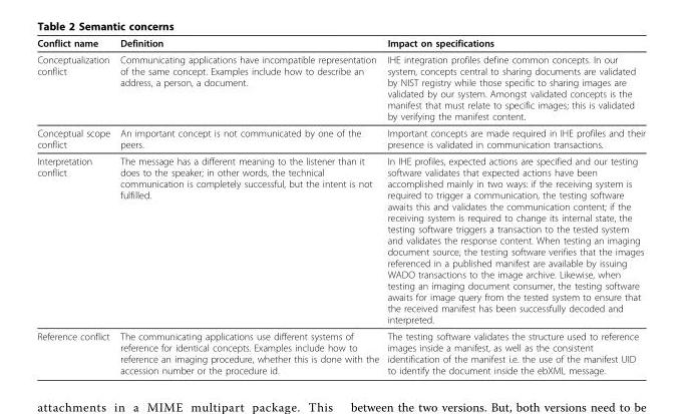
<table><thead><tr><td>Conflict name</td><td>Definition</td><td>Impact on specifications</td></tr></thead><tbody><tr><td>Conceptualization conflict</td><td>Communicating applications have incompatible representation of the same concept. Examples include how to describe an address, a person, a document.</td><td>IHE integration profiles define common concepts. In our system, concepts central to sharing documents are validated by NIST registry while those specific to sharing images are validated by our system. Amongst validated concepts is the manifest that must relate to specific images; this is validated by verifying the manifest content.</td></tr><tr><td>Conceptual scope conflict</td><td>An important concept is not communicated by one of the peers.</td><td>Important concepts are made required in IHE profiles and their presence is validated in communication transactions.</td></tr><tr><td>Interpretation conflict</td><td>The message has a different meaning to the listener than it does to the speaker; in other words, the technical communication is completely successful, but the intent is not fulfilled.</td><td>In IHE profiles, expected actions are specified and our testing software validates that expected actions have been accomplished mainly in two ways: if the receiving system is required to trigger a communication, the testing software awaits this and validates the communication content; if the receiving system is required to change its internal state, the testing software triggers a transaction to the tested system and validates the response content. When testing an imaging document source, the testing software verifies that the images referenced in a published manifest are available by issuing WADO transactions to the image archive. Likewise, when testing an imaging document consumer, the testing software awaits for image query from the tested system to ensure that the received manifest has been successfully decoded and interpreted.</td></tr><tr><td>Reference conflict</td><td>The communicating applications use different systems of reference for identical concepts. Examples include how to reference an imaging procedure, whether this is done with the accession number or the procedure id.</td><td>The testing software validates the structure used to reference images inside a manifest, as well as the consistent identification of the manifest i.e. the use of the manifest UID to identify the document inside the ebXML message.</td></tr></tbody></table>